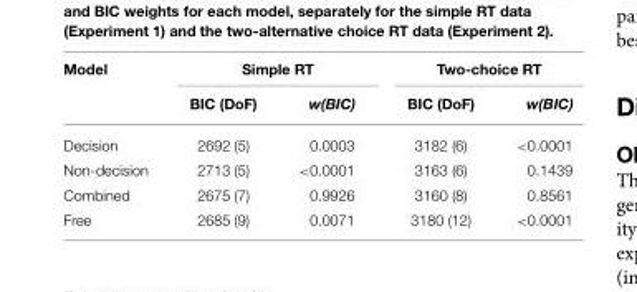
<table><thead><tr><td rowspan="2">Model</td><td colspan="2">Simple RT</td><td colspan="2">Two-choice RT</td></tr><tr><td>BIC (DoF)</td><td>w(BIC)</td><td>BIC (DoF)</td><td>w(BIC)</td></tr></thead><tbody><tr><td>Decision</td><td>2692 (5)</td><td>0.0003</td><td>3182 (6)</td><td>&lt;0.0001</td></tr><tr><td>Non-decision</td><td>2713 (5)</td><td>&lt;0.0001</td><td>3163 (6)</td><td>0.1439</td></tr><tr><td>Combined</td><td>2675 (7)</td><td>0.9926</td><td>3160 (8)</td><td>0.8561</td></tr><tr><td>Free</td><td>2685 (9)</td><td>0.0071</td><td>3180 (12)</td><td>&lt;0.0001</td></tr></tbody></table>